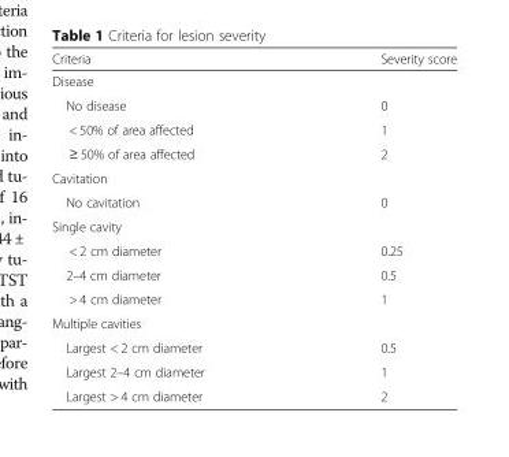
<table><thead><tr><td>Criteria</td><td>Severity score</td></tr></thead><tbody><tr><td colspan="2">Disease</td></tr><tr><td>No disease</td><td>0</td></tr><tr><td>&lt; 50% of area affected</td><td>1</td></tr><tr><td>≥ 50% of area affected</td><td>2</td></tr><tr><td colspan="2">Cavitation</td></tr><tr><td>No cavitation</td><td>0</td></tr><tr><td colspan="2">Single cavity</td></tr><tr><td>&lt; 2 cm diameter</td><td>0.25</td></tr><tr><td>2–4 cm diameter</td><td>0.5</td></tr><tr><td>&gt; 4 cm diameter</td><td>1</td></tr><tr><td colspan="2">Multiple cavities</td></tr><tr><td>Largest &lt; 2 cm diameter</td><td>0.5</td></tr><tr><td>Largest 2–4 cm diameter</td><td>1</td></tr><tr><td>Largest &gt; 4 cm diameter</td><td>2</td></tr></tbody></table>